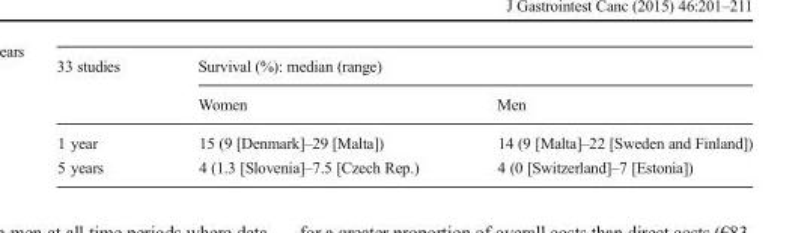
<table><thead><tr><td rowspan="2">33 studies</td><td colspan="2">Survival (%): median (range)</td></tr><tr><td>Women</td><td>Men</td></tr></thead><tbody><tr><td>1 year</td><td>15 (9 [Denmark]–29 [Malta])</td><td>14 (9 [Malta]–22 [Sweden and Finland])</td></tr><tr><td>5 years</td><td>4 (1.3 [Slovenia]–7.5 [Czech Rep.)</td><td>4 (0 [Switzerland]–7 [Estonia])</td></tr></tbody></table>